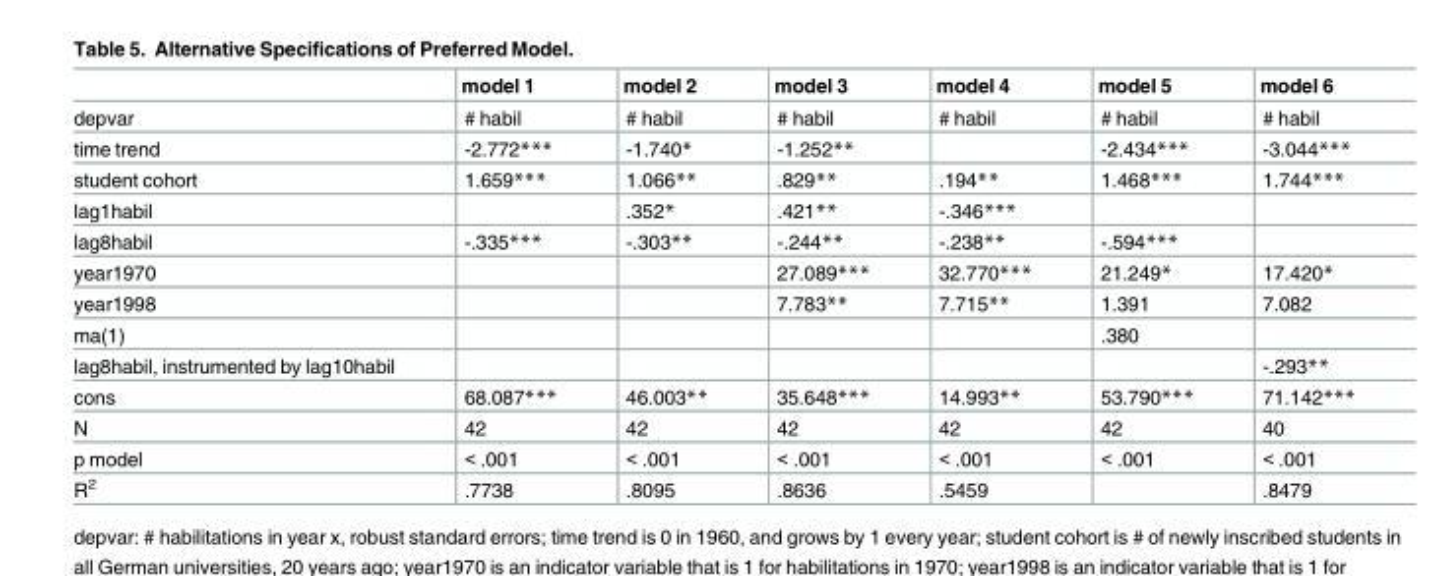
<table><thead><tr><td></td><td>model 1</td><td>model 2</td><td>model 3</td><td>model 4</td><td>model 5</td><td>model 6</td></tr></thead><tbody><tr><td>depvar</td><td># habil</td><td># habil</td><td># habil</td><td># habil</td><td># habil</td><td># habil</td></tr><tr><td>time trend</td><td>-2.772***</td><td>-1.740*</td><td>-1.252**</td><td></td><td>-2.434***</td><td>-3.044***</td></tr><tr><td>student cohort</td><td>1.659***</td><td>1.066**</td><td>.829**</td><td>.194**</td><td>1.468***</td><td>1.744***</td></tr><tr><td>lag1habil</td><td></td><td>.352*</td><td>.421**</td><td>-.346***</td><td></td><td></td></tr><tr><td>lag8habil</td><td>-.335***</td><td>-.303**</td><td>-.244**</td><td>-.238**</td><td>-.594***</td><td></td></tr><tr><td>year1970</td><td></td><td></td><td>27.089***</td><td>32.770***</td><td>21.249*</td><td>17.420*</td></tr><tr><td>year1998</td><td></td><td></td><td>7.783**</td><td>7.715**</td><td>1.391</td><td>7.082</td></tr><tr><td>ma(1)</td><td></td><td></td><td></td><td></td><td>.380</td><td></td></tr><tr><td>lag8habil, instrumented by lag10habil</td><td></td><td></td><td></td><td></td><td></td><td>-.293**</td></tr><tr><td>cons</td><td>68.087***</td><td>46.003**</td><td>35.648***</td><td>14.993**</td><td>53.790***</td><td>71.142***</td></tr><tr><td>N</td><td>42</td><td>42</td><td>42</td><td>42</td><td>42</td><td>40</td></tr><tr><td>p model</td><td>&lt; .001</td><td>&lt; .001</td><td>&lt; .001</td><td>&lt; .001</td><td>&lt; .001</td><td>&lt; .001</td></tr><tr><td>R<sup>2</sup></td><td>.7738</td><td>.8095</td><td>.8636</td><td>.5459</td><td></td><td>.8479</td></tr></tbody></table>